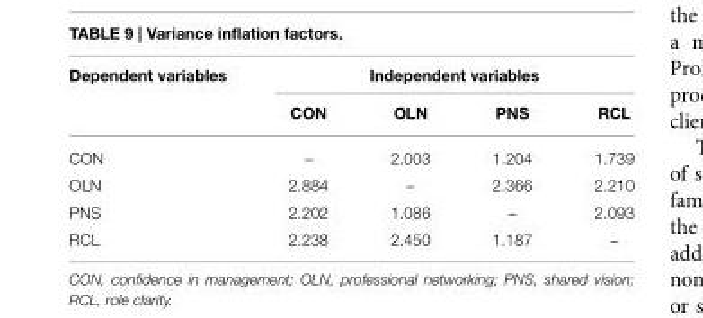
<table><thead><tr><td rowspan="2">Dependent variables</td><td colspan="4">Independent variables</td></tr><tr><td>CON</td><td>OLN</td><td>PNS</td><td>RCL</td></tr></thead><tbody><tr><td>CON</td><td>–</td><td>2.003</td><td>1.204</td><td>1.739</td></tr><tr><td>OLN</td><td>2.884</td><td>–</td><td>2.366</td><td>2.210</td></tr><tr><td>PNS</td><td>2.202</td><td>1.086</td><td>–</td><td>2.093</td></tr><tr><td>RCL</td><td>2.238</td><td>2.450</td><td>1.187</td><td>–</td></tr></tbody></table>